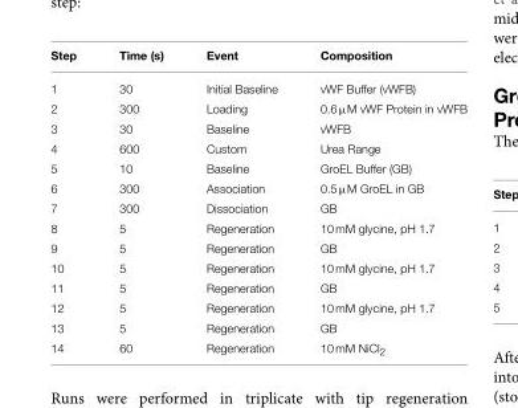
<table><thead><tr><td>Step</td><td>Time (s)</td><td>Event</td><td>Composition</td></tr></thead><tbody><tr><td>1</td><td>30</td><td>Initial Baseline</td><td>vWF Buffer (vWFB)</td></tr><tr><td>2</td><td>300</td><td>Loading</td><td>0.6 µM vWF Protein in vWFB</td></tr><tr><td>3</td><td>30</td><td>Baseline</td><td>vWFB</td></tr><tr><td>4</td><td>600</td><td>Custom</td><td>Urea Range</td></tr><tr><td>5</td><td>10</td><td>Baseline</td><td>GroEL Buffer (GB)</td></tr><tr><td>6</td><td>300</td><td>Association</td><td>0.5 µM GroEL in GB</td></tr><tr><td>7</td><td>300</td><td>Dissociation</td><td>GB</td></tr><tr><td>8</td><td>5</td><td>Regeneration</td><td>10 mM glycine, pH 1.7</td></tr><tr><td>9</td><td>5</td><td>Regeneration</td><td>GB</td></tr><tr><td>10</td><td>5</td><td>Regeneration</td><td>10 mM glycine, pH 1.7</td></tr><tr><td>11</td><td>5</td><td>Regeneration</td><td>GB</td></tr><tr><td>12</td><td>5</td><td>Regeneration</td><td>10 mM glycine, pH 1.7</td></tr><tr><td>13</td><td>5</td><td>Regeneration</td><td>GB</td></tr><tr><td>14</td><td>60</td><td>Regeneration</td><td>10 mM NiCl<sub>2</sub></td></tr></tbody></table>